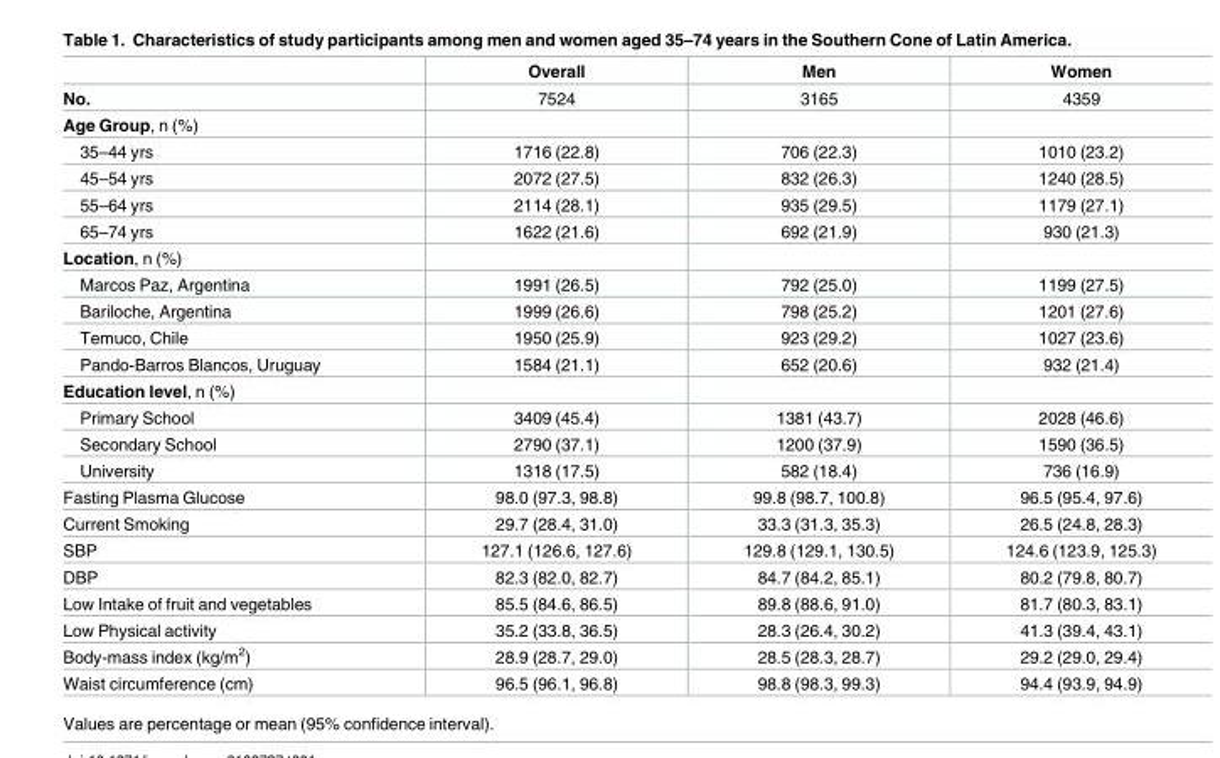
<table><thead><tr><td></td><td>Overall</td><td>Men</td><td>Women</td></tr></thead><tbody><tr><td>No.</td><td>7524</td><td>3165</td><td>4359</td></tr><tr><td colspan="4">Age Group, n (%)</td></tr><tr><td>35–44 yrs</td><td>1716 (22.8)</td><td>706 (22.3)</td><td>1010 (23.2)</td></tr><tr><td>45–54 yrs</td><td>2072 (27.5)</td><td>832 (26.3)</td><td>1240 (28.5)</td></tr><tr><td>55–64 yrs</td><td>2114 (28.1)</td><td>935 (29.5)</td><td>1179 (27.1)</td></tr><tr><td>65–74 yrs</td><td>1622 (21.6)</td><td>692 (21.9)</td><td>930 (21.3)</td></tr><tr><td colspan="4">Location, n (%)</td></tr><tr><td>Marcos Paz, Argentina</td><td>1991 (26.5)</td><td>792 (25.0)</td><td>1199 (27.5)</td></tr><tr><td>Bariloche, Argentina</td><td>1999 (26.6)</td><td>798 (25.2)</td><td>1201 (27.6)</td></tr><tr><td>Temuco, Chile</td><td>1950 (25.9)</td><td>923 (29.2)</td><td>1027 (23.6)</td></tr><tr><td>Pando-Barros Blancos, Uruguay</td><td>1584 (21.1)</td><td>652 (20.6)</td><td>932 (21.4)</td></tr><tr><td colspan="4">Education level, n (%)</td></tr><tr><td>Primary School</td><td>3409 (45.4)</td><td>1381 (43.7)</td><td>2028 (46.6)</td></tr><tr><td>Secondary School</td><td>2790 (37.1)</td><td>1200 (37.9)</td><td>1590 (36.5)</td></tr><tr><td>University</td><td>1318 (17.5)</td><td>582 (18.4)</td><td>736 (16.9)</td></tr><tr><td>Fasting Plasma Glucose</td><td>98.0 (97.3, 98.8)</td><td>99.8 (98.7, 100.8)</td><td>96.5 (95.4, 97.6)</td></tr><tr><td>Current Smoking</td><td>29.7 (28.4, 31.0)</td><td>33.3 (31.3, 35.3)</td><td>26.5 (24.8, 28.3)</td></tr><tr><td>SBP</td><td>127.1 (126.6, 127.6)</td><td>129.8 (129.1, 130.5)</td><td>124.6 (123.9, 125.3)</td></tr><tr><td>DBP</td><td>82.3 (82.0, 82.7)</td><td>84.7 (84.2, 85.1)</td><td>80.2 (79.8, 80.7)</td></tr><tr><td>Low Intake of fruit and vegetables</td><td>85.5 (84.6, 86.5)</td><td>89.8 (88.6, 91.0)</td><td>81.7 (80.3, 83.1)</td></tr><tr><td>Low Physical activity</td><td>35.2 (33.8, 36.5)</td><td>28.3 (26.4, 30.2)</td><td>41.3 (39.4, 43.1)</td></tr><tr><td>Body-mass index (kg/m<sup>2</sup>)</td><td>28.9 (28.7, 29.0)</td><td>28.5 (28.3, 28.7)</td><td>29.2 (29.0, 29.4)</td></tr><tr><td>Waist circumference (cm)</td><td>96.5 (96.1, 96.8)</td><td>98.8 (98.3, 99.3)</td><td>94.4 (93.9, 94.9)</td></tr></tbody></table>